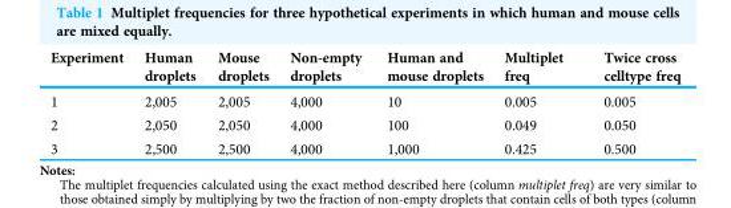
<table><thead><tr><td>Experiment</td><td>Human droplets</td><td>Mouse droplets</td><td>Non-empty droplets</td><td>Human and mouse droplets</td><td>Multiplet freq</td><td>Twice cross celltype freq</td></tr></thead><tbody><tr><td>1</td><td>2,005</td><td>2,005</td><td>4,000</td><td>10</td><td>0.005</td><td>0.005</td></tr><tr><td>2</td><td>2,050</td><td>2,050</td><td>4,000</td><td>100</td><td>0.049</td><td>0.050</td></tr><tr><td>3</td><td>2,500</td><td>2,500</td><td>4,000</td><td>1,000</td><td>0.425</td><td>0.500</td></tr></tbody></table>